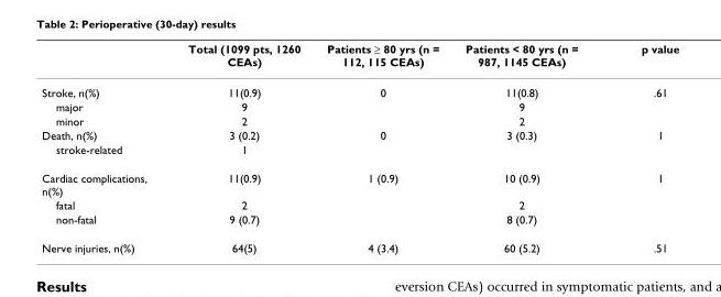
<table><thead><tr><td></td><td>Total (1099 pts, 1260 CEAs)</td><td>Patients ≥ 80 yrs (n = 112, 115 CEAs)</td><td>Patients &lt; 80 yrs (n = 987, 1145 CEAs)</td><td>p value</td></tr></thead><tbody><tr><td>Stroke, n(%)</td><td>11(0.9)</td><td>0</td><td>11(0.8)</td><td>.61</td></tr><tr><td>major</td><td>9</td><td></td><td>9</td><td></td></tr><tr><td>minor</td><td>2</td><td></td><td>2</td><td></td></tr><tr><td>Death, n(%)</td><td>3 (0.2)</td><td>0</td><td>3 (0.3)</td><td>1</td></tr><tr><td>stroke-related</td><td>1</td><td></td><td></td><td></td></tr><tr><td>Cardiac complications, n(%)</td><td>11(0.9)</td><td>1 (0.9)</td><td>10 (0.9)</td><td>1</td></tr><tr><td>fatal</td><td>2</td><td></td><td>2</td><td></td></tr><tr><td>non-fatal</td><td>9 (0.7)</td><td></td><td>8 (0.7)</td><td></td></tr><tr><td>Nerve injuries, n(%)</td><td>64(5)</td><td>4 (3.4)</td><td>60 (5.2)</td><td>.51</td></tr></tbody></table>